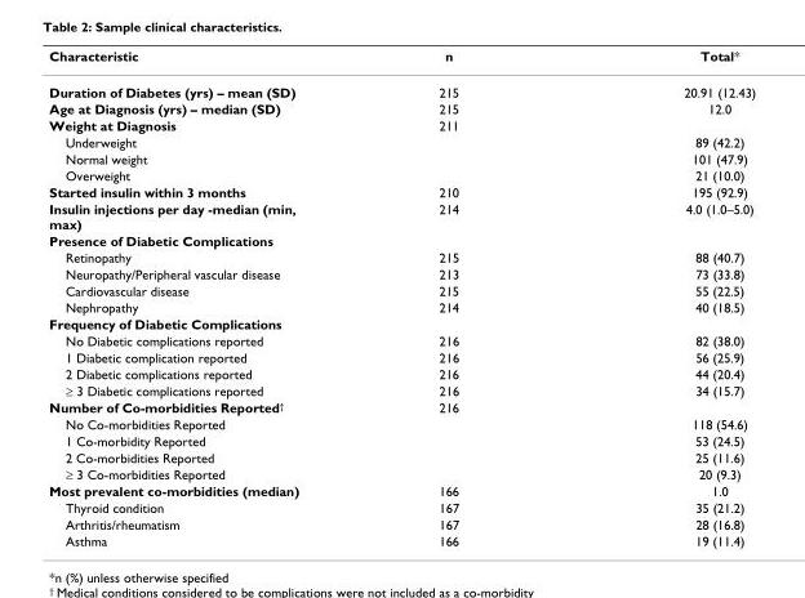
<table><thead><tr><td>Characteristic</td><td>n</td><td>Total*</td></tr></thead><tbody><tr><td>Duration of Diabetes (yrs) – mean (SD)</td><td>215</td><td>20.91 (12.43)</td></tr><tr><td>Age at Diagnosis (yrs) – median (SD)</td><td>215</td><td>12.0</td></tr><tr><td>Weight at Diagnosis</td><td>211</td><td></td></tr><tr><td>Underweight</td><td></td><td>89 (42.2)</td></tr><tr><td>Normal weight</td><td></td><td>101 (47.9)</td></tr><tr><td>Overweight</td><td></td><td>21 (10.0)</td></tr><tr><td>Started insulin within 3 months</td><td>210</td><td>195 (92.9)</td></tr><tr><td>Insulin injections per day -median (min, max)</td><td>214</td><td>4.0 (1.0–5.0)</td></tr><tr><td colspan="3">Presence of Diabetic Complications</td></tr><tr><td>Retinopathy</td><td>215</td><td>88 (40.7)</td></tr><tr><td>Neuropathy/Peripheral vascular disease</td><td>213</td><td>73 (33.8)</td></tr><tr><td>Cardiovascular disease</td><td>215</td><td>55 (22.5)</td></tr><tr><td>Nephropathy</td><td>214</td><td>40 (18.5)</td></tr><tr><td colspan="3">Frequency of Diabetic Complications</td></tr><tr><td>No Diabetic complications reported</td><td>216</td><td>82 (38.0)</td></tr><tr><td>1 Diabetic complication reported</td><td>216</td><td>56 (25.9)</td></tr><tr><td>2 Diabetic complications reported</td><td>216</td><td>44 (20.4)</td></tr><tr><td>≥ 3 Diabetic complications reported</td><td>216</td><td>34 (15.7)</td></tr><tr><td>Number of Co-morbidities Reported<sup>†</sup></td><td>216</td><td></td></tr><tr><td>No Co-morbidities Reported</td><td></td><td>118 (54.6)</td></tr><tr><td>1 Co-morbidity Reported</td><td></td><td>53 (24.5)</td></tr><tr><td>2 Co-morbidities Reported</td><td></td><td>25 (11.6)</td></tr><tr><td>≥ 3 Co-morbidities Reported</td><td></td><td>20 (9.3)</td></tr><tr><td>Most prevalent co-morbidities (median)</td><td>166</td><td>1.0</td></tr><tr><td>Thyroid condition</td><td>167</td><td>35 (21.2)</td></tr><tr><td>Arthritis/rheumatism</td><td>167</td><td>28 (16.8)</td></tr><tr><td>Asthma</td><td>166</td><td>19 (11.4)</td></tr></tbody></table>